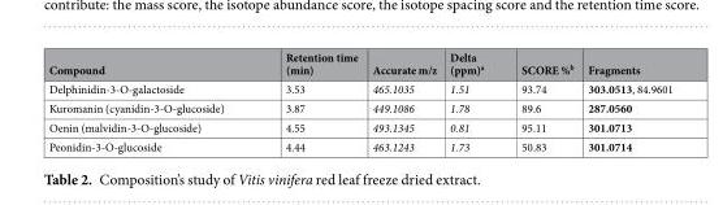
<table><thead><tr><td>Compound</td><td>Retention time (min)</td><td>Accurate m/z</td><td>Delta (ppm)<sup>a</sup></td><td>SCORE %<sup>b</sup></td><td>Fragments</td></tr></thead><tbody><tr><td>Delphinidin-3-O-galactoside</td><td>3.53</td><td>465.1035</td><td>1.51</td><td>93.74</td><td>303.0513, 84.9601</td></tr><tr><td>Kuromanin (cyanidin-3-O-glucoside)</td><td>3.87</td><td>449.1086</td><td>1.78</td><td>89.6</td><td>287.0560</td></tr><tr><td>Oenin (malvidin-3-O-glucoside)</td><td>4.55</td><td>493.1345</td><td>0.81</td><td>95.11</td><td>301.0713</td></tr><tr><td>Peonidin-3-O-glucoside</td><td>4.44</td><td>463.1243</td><td>1.73</td><td>50.83</td><td>301.0714</td></tr></tbody></table>